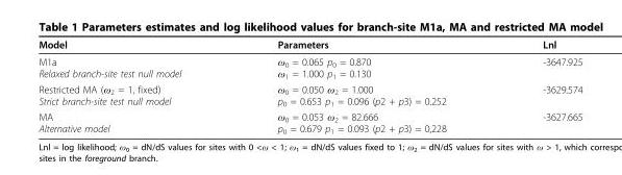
<table><thead><tr><td>Model</td><td>Parameters</td><td>Lnl</td></tr></thead><tbody><tr><td>M1a Relaxed branch-site test null model</td><td>ω<sub>0</sub> = 0.065 p<sub>0</sub> = 0.870 ω<sub>1</sub> = 1.000 p<sub>1</sub> = 0.130</td><td>-3647.925</td></tr><tr><td>Restricted MA (ω<sub>2</sub> = 1, fixed) Strict branch-site test null model</td><td>ω<sub>0</sub> = 0.050 ω<sub>2</sub> = 1.000 p<sub>0</sub> = 0.653 p<sub>1</sub> = 0.096 (p2 + p3) = 0.252</td><td>-3629.574</td></tr><tr><td>MA Alternative model</td><td>ω<sub>0</sub> = 0.053 ω<sub>2</sub> = 82.666 p<sub>0</sub> = 0.679 p<sub>1</sub> = 0.093 (p2 + p3) = 0,228</td><td>-3627.665</td></tr></tbody></table>